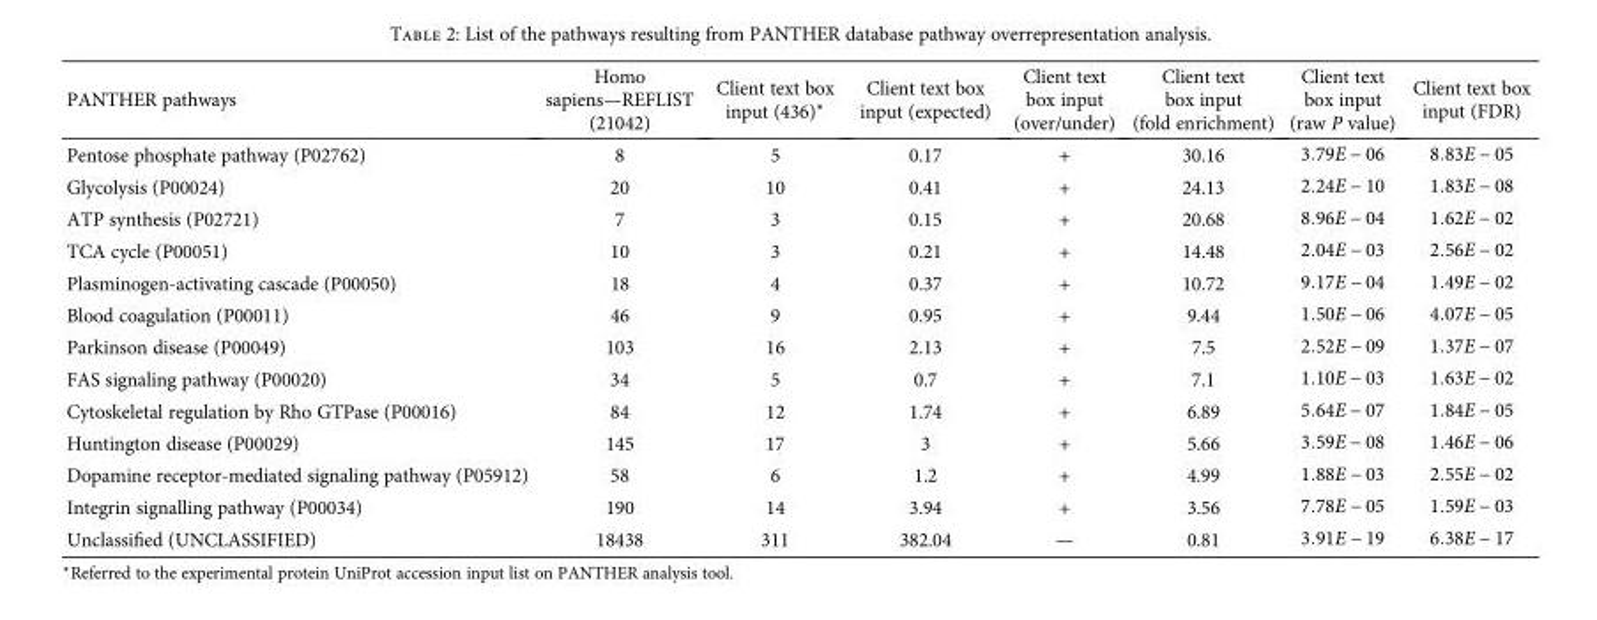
<table><thead><tr><td>PANTHER pathways</td><td>Homo sapiens—REFLIST (21042)</td><td>Client text box input (436)∗</td><td>Client text box input (expected)</td><td>Client text box input (over/under)</td><td>Client text box input (fold enrichment)</td><td>Client text box input (raw P value)</td><td>Client text box input (FDR)</td></tr></thead><tbody><tr><td>Pentose phosphate pathway (P02762)</td><td>8</td><td>5</td><td>0.17</td><td>+</td><td>30.16</td><td>3 79E − 06</td><td>8 83E − 05</td></tr><tr><td>Glycolysis (P00024)</td><td>20</td><td>10</td><td>0.41</td><td>+</td><td>24.13</td><td>2 24E − 10</td><td>1 83E − 08</td></tr><tr><td>ATP synthesis (P02721)</td><td>7</td><td>3</td><td>0.15</td><td>+</td><td>20.68</td><td>8 96E − 04</td><td>1 62E − 02</td></tr><tr><td>TCA cycle (P00051)</td><td>10</td><td>3</td><td>0.21</td><td>+</td><td>14.48</td><td>2 04E − 03</td><td>2 56E − 02</td></tr><tr><td>Plasminogen-activating cascade (P00050)</td><td>18</td><td>4</td><td>0.37</td><td>+</td><td>10.72</td><td>9 17E − 04</td><td>1 49E − 02</td></tr><tr><td>Blood coagulation (P00011)</td><td>46</td><td>9</td><td>0.95</td><td>+</td><td>9.44</td><td>1 50E − 06</td><td>4 07E − 05</td></tr><tr><td>Parkinson disease (P00049)</td><td>103</td><td>16</td><td>2.13</td><td>+</td><td>7.5</td><td>2 52E − 09</td><td>1 37E − 07</td></tr><tr><td>FAS signaling pathway (P00020)</td><td>34</td><td>5</td><td>0.7</td><td>+</td><td>7.1</td><td>1 10E − 03</td><td>1 63E − 02</td></tr><tr><td>Cytoskeletal regulation by Rho GTPase (P00016)</td><td>84</td><td>12</td><td>1.74</td><td>+</td><td>6.89</td><td>5 64E − 07</td><td>1 84E − 05</td></tr><tr><td>Huntington disease (P00029)</td><td>145</td><td>17</td><td>3</td><td>+</td><td>5.66</td><td>3 59E − 08</td><td>1 46E − 06</td></tr><tr><td>Dopamine receptor-mediated signaling pathway (P05912)</td><td>58</td><td>6</td><td>1.2</td><td>+</td><td>4.99</td><td>1 88E − 03</td><td>2 55E − 02</td></tr><tr><td>Integrin signalling pathway (P00034)</td><td>190</td><td>14</td><td>3.94</td><td>+</td><td>3.56</td><td>7 78E − 05</td><td>1 59E − 03</td></tr><tr><td>Unclassified (UNCLASSIFIED)</td><td>18438</td><td>311</td><td>382.04</td><td>—</td><td>0.81</td><td>3 91E − 19</td><td>6 38E − 17</td></tr></tbody></table>